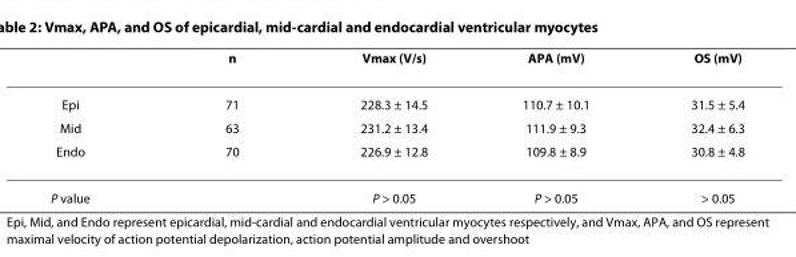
<table><thead><tr><td></td><td>n</td><td>Vmax (V/s)</td><td>APA (mV)</td><td>OS (mV)</td></tr></thead><tbody><tr><td>Epi</td><td>71</td><td>228.3 ± 14.5</td><td>110.7 ± 10.1</td><td>31.5 ± 5.4</td></tr><tr><td>Mid</td><td>63</td><td>231.2 ± 13.4</td><td>111.9 ± 9.3</td><td>32.4 ± 6.3</td></tr><tr><td>Endo</td><td>70</td><td>226.9 ± 12.8</td><td>109.8 ± 8.9</td><td>30.8 ± 4.8</td></tr><tr><td>P value</td><td></td><td>P &gt; 0.05</td><td>P &gt; 0.05</td><td>&gt; 0.05</td></tr></tbody></table>